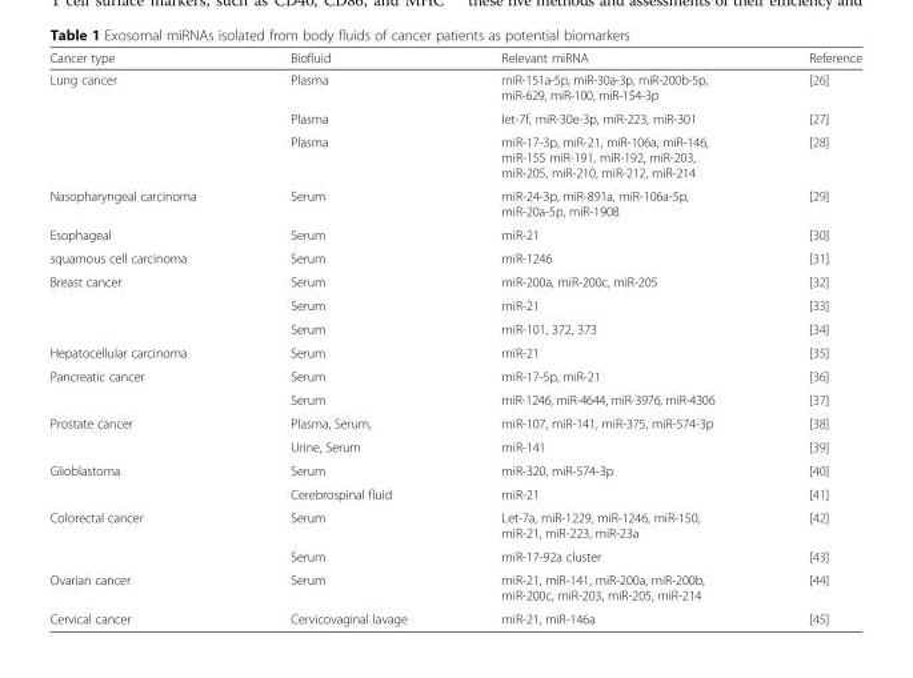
<table><thead><tr><td>Cancer type</td><td>Biofluid</td><td>Relevant miRNA</td><td>Reference</td></tr></thead><tbody><tr><td rowspan="3">Lung cancer</td><td>Plasma</td><td>miR-151a-5p, miR-30a-3p, miR-200b-5p, miR-629, miR-100, miR-154-3p</td><td>[26]</td></tr><tr><td>Plasma</td><td>let-7f, miR-30e-3p, miR-223, miR-301</td><td>[27]</td></tr><tr><td>Plasma</td><td>miR-17-3p, miR-21, miR-106a, miR-146, miR-155 miR-191, miR-192, miR-203, miR-205, miR-210, miR-212, miR-214</td><td>[28]</td></tr><tr><td>Nasopharyngeal carcinoma</td><td>Serum</td><td>miR-24-3p, miR-891a, miR-106a-5p, miR-20a-5p, miR-1908</td><td>[29]</td></tr><tr><td>Esophageal</td><td>Serum</td><td>miR-21</td><td>[30]</td></tr><tr><td>squamous cell carcinoma</td><td>Serum</td><td>miR-1246</td><td>[31]</td></tr><tr><td rowspan="3">Breast cancer</td><td>Serum</td><td>miR-200a, miR-200c, miR-205</td><td>[32]</td></tr><tr><td>Serum</td><td>miR-21</td><td>[33]</td></tr><tr><td>Serum</td><td>miR-101, 372, 373</td><td>[34]</td></tr><tr><td>Hepatocellular carcinoma</td><td>Serum</td><td>miR-21</td><td>[35]</td></tr><tr><td rowspan="2">Pancreatic cancer</td><td>Serum</td><td>miR-17-5p, miR-21</td><td>[36]</td></tr><tr><td>Serum</td><td>miR-1246, miR-4644, miR-3976, miR-4306</td><td>[37]</td></tr><tr><td rowspan="2">Prostate cancer</td><td>Plasma, Serum,</td><td>miR-107, miR-141, miR-375, miR-574-3p</td><td>[38]</td></tr><tr><td>Urine, Serum</td><td>miR-141</td><td>[39]</td></tr><tr><td rowspan="2">Glioblastoma</td><td>Serum</td><td>miR-320, miR-574-3p</td><td>[40]</td></tr><tr><td>Cerebrospinal fluid</td><td>miR-21</td><td>[41]</td></tr><tr><td rowspan="2">Colorectal cancer</td><td>Serum</td><td>Let-7a, miR-1229, miR-1246, miR-150, miR-21, miR-223, miR-23a</td><td>[42]</td></tr><tr><td>Serum</td><td>miR-17-92a cluster</td><td>[43]</td></tr><tr><td>Ovarian cancer</td><td>Serum</td><td>miR-21, miR-141, miR-200a, miR-200b, miR-200c, miR-203, miR-205, miR-214</td><td>[44]</td></tr><tr><td>Cervical cancer</td><td>Cervicovaginal lavage</td><td>miR-21, miR-146a</td><td>[45]</td></tr></tbody></table>